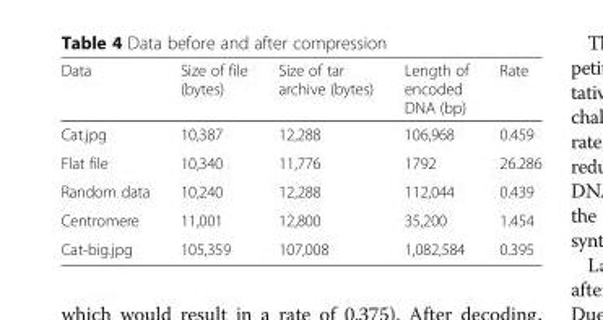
<table><thead><tr><td>Data</td><td>Size of file (bytes)</td><td>Size of tar archive (bytes)</td><td>Length of encoded DNA (bp)</td><td>Rate</td></tr></thead><tbody><tr><td>Cat.jpg</td><td>10,387</td><td>12,288</td><td>106,968</td><td>0.459</td></tr><tr><td>Flat file</td><td>10,340</td><td>11,776</td><td>1792</td><td>26.286</td></tr><tr><td>Random data</td><td>10,240</td><td>12,288</td><td>112,044</td><td>0.439</td></tr><tr><td>Centromere</td><td>11,001</td><td>12,800</td><td>35,200</td><td>1.454</td></tr><tr><td>Cat-big.jpg</td><td>105,359</td><td>107,008</td><td>1,082,584</td><td>0.395</td></tr></tbody></table>